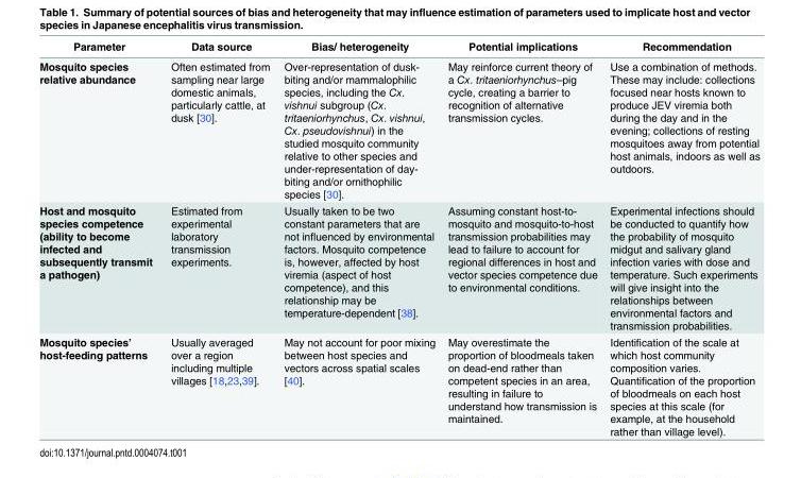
<table><thead><tr><td>Parameter</td><td>Data source</td><td>Bias/ heterogeneity</td><td>Potential implications</td><td>Recommendation</td></tr></thead><tbody><tr><td>Mosquito species relative abundance</td><td>Often estimated from sampling near large domestic animals, particularly cattle, at dusk [30].</td><td>Over-representation of dusk- biting and/or mammalophilic species, including the Cx. vishnui subgroup (Cx. tritaeniorhynchus, Cx. vishnui, Cx. pseudovishnui) in the studied mosquito community relative to other species and under-representation of day- biting and/or ornithophilic species [30].</td><td>May reinforce current theory of a Cx. tritaeniorhynchus–pig cycle, creating a barrier to recognition of alternative transmission cycles.</td><td>Use a combination of methods. These may include: collections focused near hosts known to produce JEV viremia both during the day and in the evening; collections of resting mosquitoes away from potential host animals, indoors as well as outdoors.</td></tr><tr><td>Host and mosquito species competence (ability to become infected and subsequently transmit a pathogen)</td><td>Estimated from experimental laboratory transmission experiments.</td><td>Usually taken to be two constant parameters that are not influenced by environmental factors. Mosquito competence is, however, affected by host viremia (aspect of host competence), and this relationship may be temperature-dependent [38].</td><td>Assuming constant host-to- mosquito and mosquito-to-host transmission probabilities may lead to failure to account for regional differences in host and vector species competence due to environmental conditions.</td><td>Experimental infections should be conducted to quantify how the probability of mosquito midgut and salivary gland infection varies with dose and temperature. Such experiments will give insight into the relationships between environmental factors and transmission probabilities.</td></tr><tr><td>Mosquito species’ host-feeding patterns</td><td>Usually averaged over a region including multiple villages [18,23,39].</td><td>May not account for poor mixing between host species and vectors across spatial scales [40].</td><td>May overestimate the proportion of bloodmeals taken on dead-end rather than competent species in an area, resulting in failure to understand how transmission is maintained.</td><td>Identification of the scale at which host community composition varies. Quantification of the proportion of bloodmeals on each host species at this scale (for example, at the household rather than village level).</td></tr></tbody></table>